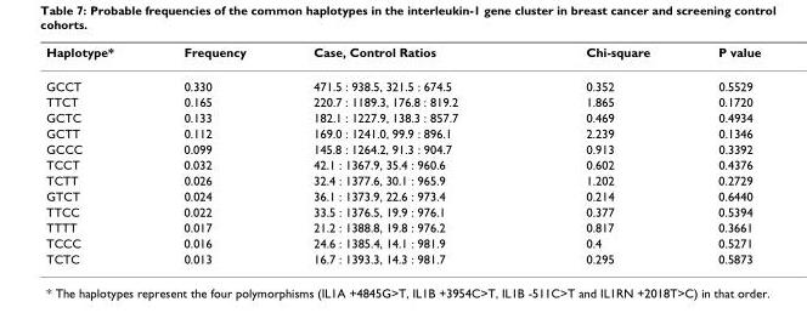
<table><thead><tr><td>Haplotype*</td><td>Frequency</td><td>Case, Control Ratios</td><td>Chi-square</td><td>P value</td></tr></thead><tbody><tr><td>GCCT</td><td>0.330</td><td>471.5 : 938.5, 321.5 : 674.5</td><td>0.352</td><td>0.5529</td></tr><tr><td>TTCT</td><td>0.165</td><td>220.7 : 1189.3, 176.8 : 819.2</td><td>1.865</td><td>0.1720</td></tr><tr><td>GCTC</td><td>0.133</td><td>182.1 : 1227.9, 138.3 : 857.7</td><td>0.469</td><td>0.4934</td></tr><tr><td>GCTT</td><td>0.112</td><td>169.0 : 1241.0, 99.9 : 896.1</td><td>2.239</td><td>0.1346</td></tr><tr><td>GCCC</td><td>0.099</td><td>145.8 : 1264.2, 91.3 : 904.7</td><td>0.913</td><td>0.3392</td></tr><tr><td>TCCT</td><td>0.032</td><td>42.1 : 1367.9, 35.4 : 960.6</td><td>0.602</td><td>0.4376</td></tr><tr><td>TCTT</td><td>0.026</td><td>32.4 : 1377.6, 30.1 : 965.9</td><td>1.202</td><td>0.2729</td></tr><tr><td>GTCT</td><td>0.024</td><td>36.1 : 1373.9, 22.6 : 973.4</td><td>0.214</td><td>0.6440</td></tr><tr><td>TTCC</td><td>0.022</td><td>33.5 : 1376.5, 19.9 : 976.1</td><td>0.377</td><td>0.5394</td></tr><tr><td>TTTT</td><td>0.017</td><td>21.2 : 1388.8, 19.8 : 976.2</td><td>0.817</td><td>0.3661</td></tr><tr><td>TCCC</td><td>0.016</td><td>24.6 : 1385.4, 14.1 : 981.9</td><td>0.4</td><td>0.5271</td></tr><tr><td>TCTC</td><td>0.013</td><td>16.7 : 1393.3, 14.3 : 981.7</td><td>0.295</td><td>0.5873</td></tr></tbody></table>